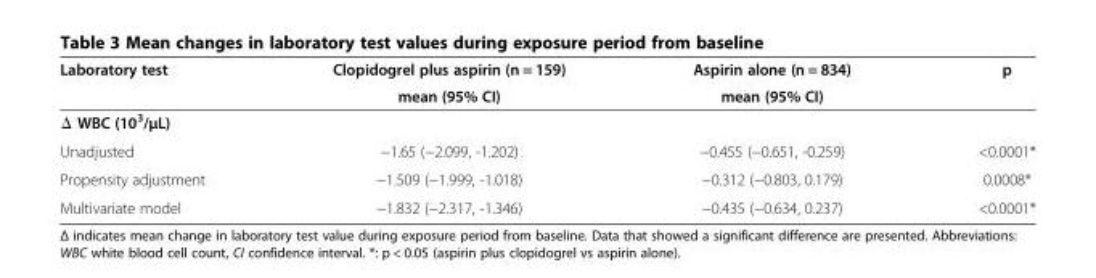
<table><thead><tr><td rowspan="2">Laboratory test</td><td rowspan="2">Clopidogrel plus aspirin (n = 159) mean (95% CI)</td><td rowspan="2">Aspirin alone (n = 834) mean (95% CI)</td><td rowspan="2">p</td></tr><tr></tr></thead><tbody><tr><td colspan="4">Δ WBC (10<sup>3</sup>/μL)</td></tr><tr><td>Unadjusted</td><td>−1.65 (−2.099, -1.202)</td><td>−0.455 (−0.651, -0.259)</td><td>&lt;0.0001*</td></tr><tr><td>Propensity adjustment</td><td>−1.509 (−1.999, -1.018)</td><td>−0.312 (−0.803, 0.179)</td><td>0.0008*</td></tr><tr><td>Multivariate model</td><td>−1.832 (−2.317, -1.346)</td><td>−0.435 (−0.634, 0.237)</td><td>&lt;0.0001*</td></tr></tbody></table>